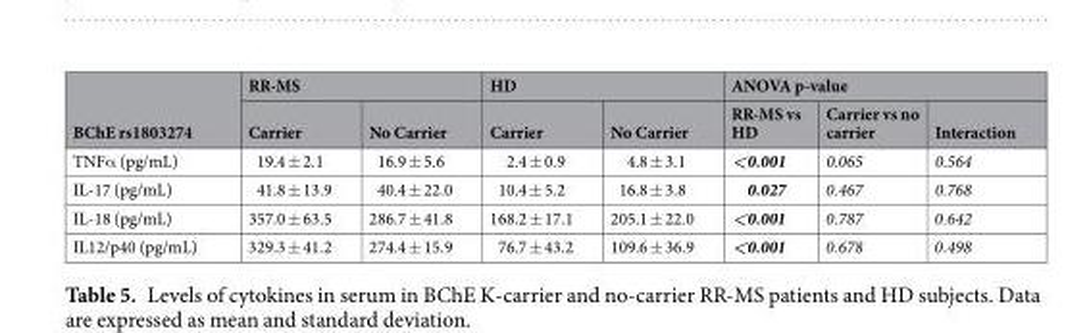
<table><thead><tr><td rowspan="2">BChE rs1803274</td><td colspan="2">RR-MS</td><td colspan="2">HD</td><td colspan="3">ANOVA p-value</td></tr><tr><td>Carrier</td><td>No Carrier</td><td>Carrier</td><td>No Carrier</td><td>RR-MS vs HD</td><td>Carrier vs no carrier</td><td>Interaction</td></tr></thead><tbody><tr><td>TNFα (pg/mL)</td><td>19.4 ± 2.1</td><td>16.9 ± 5.6</td><td>2.4 ± 0.9</td><td>4.8 ± 3.1</td><td>&lt;0.001</td><td>0.065</td><td>0.564</td></tr><tr><td>IL-17 (pg/mL)</td><td>41.8 ± 13.9</td><td>40.4 ± 22.0</td><td>10.4 ± 5.2</td><td>16.8 ± 3.8</td><td>0.027</td><td>0.467</td><td>0.768</td></tr><tr><td>IL-18 (pg/mL)</td><td>357.0 ± 63.5</td><td>286.7 ± 41.8</td><td>168.2 ± 17.1</td><td>205.1 ± 22.0</td><td>&lt;0.001</td><td>0.787</td><td>0.642</td></tr><tr><td>IL12/p40 (pg/mL)</td><td>329.3 ± 41.2</td><td>274.4 ± 15.9</td><td>76.7 ± 43.2</td><td>109.6 ± 36.9</td><td>&lt;0.001</td><td>0.678</td><td>0.498</td></tr></tbody></table>